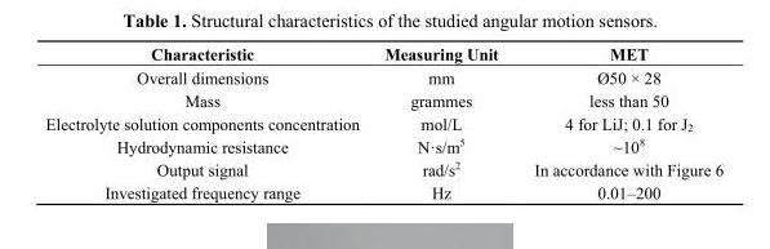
<table><thead><tr><td>Characteristic</td><td>Measuring Unit</td><td>MET</td></tr></thead><tbody><tr><td>Overall dimensions</td><td>mm</td><td>Ø50 × 28</td></tr><tr><td>Mass</td><td>grammes</td><td>less than 50</td></tr><tr><td>Electrolyte solution components concentration</td><td>mol/L</td><td>4 for LiJ; 0.1 for J<sub>2</sub></td></tr><tr><td>Hydrodynamic resistance</td><td>N·s/m<sup>5</sup></td><td>~10<sup>8</sup></td></tr><tr><td>Output signal</td><td>rad/s<sup>2</sup></td><td>In accordance with Figure 6</td></tr><tr><td>Investigated frequency range</td><td>Hz</td><td>0.01–200</td></tr></tbody></table>